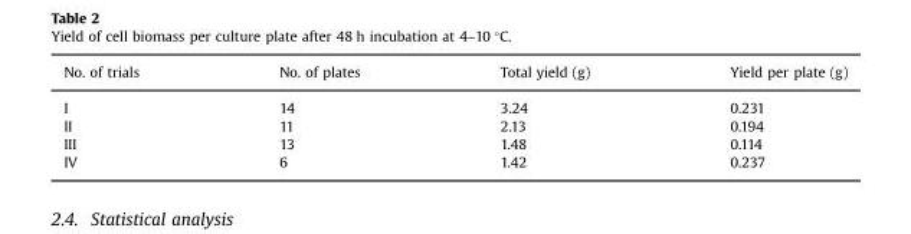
<table><thead><tr><td>No. of trials</td><td>No. of plates</td><td>Total yield (g)</td><td>Yield per plate (g)</td></tr></thead><tbody><tr><td>I</td><td>14</td><td>3.24</td><td>0.231</td></tr><tr><td>II</td><td>11</td><td>2.13</td><td>0.194</td></tr><tr><td>III</td><td>13</td><td>1.48</td><td>0.114</td></tr><tr><td>IV</td><td>6</td><td>1.42</td><td>0.237</td></tr></tbody></table>